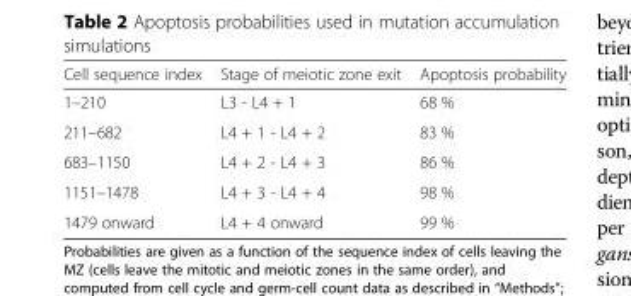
<table><thead><tr><td>Cell sequence index</td><td>Stage of meiotic zone exit</td><td>Apoptosis probability</td></tr></thead><tbody><tr><td>1–210</td><td>L3 - L4 + 1</td><td>68 %</td></tr><tr><td>211–682</td><td>L4 + 1 - L4 + 2</td><td>83 %</td></tr><tr><td>683–1150</td><td>L4 + 2 - L4 + 3</td><td>86 %</td></tr><tr><td>1151–1478</td><td>L4 + 3 - L4 + 4</td><td>98 %</td></tr><tr><td>1479 onward</td><td>L4 + 4 onward</td><td>99 %</td></tr></tbody></table>